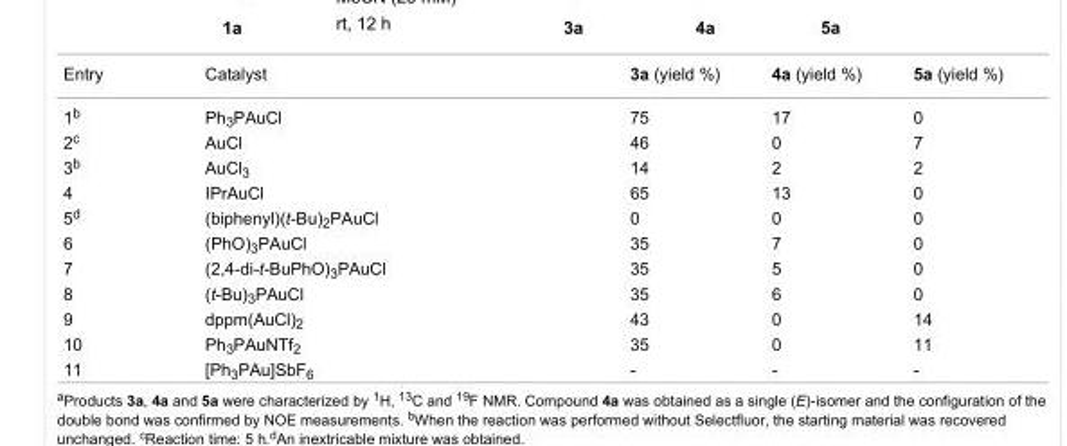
<table><tbody><tr><td>Entry</td><td>Catalyst</td><td>3a (yield %)</td><td>4a (yield %)</td><td>5a (yield %)</td></tr><tr><td>1<sup>b</sup></td><td>Ph<sub>3</sub>PAuCl</td><td>75</td><td>17</td><td>0</td></tr><tr><td>2<sup>c</sup></td><td>AuCl</td><td>46</td><td>0</td><td>7</td></tr><tr><td>3<sup>b</sup></td><td>AuCl<sub>3</sub></td><td>14</td><td>2</td><td>2</td></tr><tr><td>4</td><td>IPrAuCl</td><td>65</td><td>13</td><td>0</td></tr><tr><td>5<sup>d</sup></td><td>(biphenyl)(t-Bu)<sub>2</sub>PAuCl</td><td>0</td><td>0</td><td>0</td></tr><tr><td>6</td><td>(PhO)<sub>3</sub>PAuCl</td><td>35</td><td>7</td><td>0</td></tr><tr><td>7</td><td>(2,4-di-t-BuPhO)<sub>3</sub>PAuCl</td><td>35</td><td>5</td><td>0</td></tr><tr><td>8</td><td>(t-Bu)<sub>3</sub>PAuCl</td><td>35</td><td>6</td><td>0</td></tr><tr><td>9</td><td>dppm(AuCl)<sub>2</sub></td><td>43</td><td>0</td><td>14</td></tr><tr><td>10</td><td>Ph<sub>3</sub>PAuNTf<sub>2</sub></td><td>35</td><td>0</td><td>11</td></tr><tr><td>11</td><td>[Ph<sub>3</sub>PAu]SbF<sub>6</sub></td><td>-</td><td>-</td><td>-</td></tr></tbody></table>